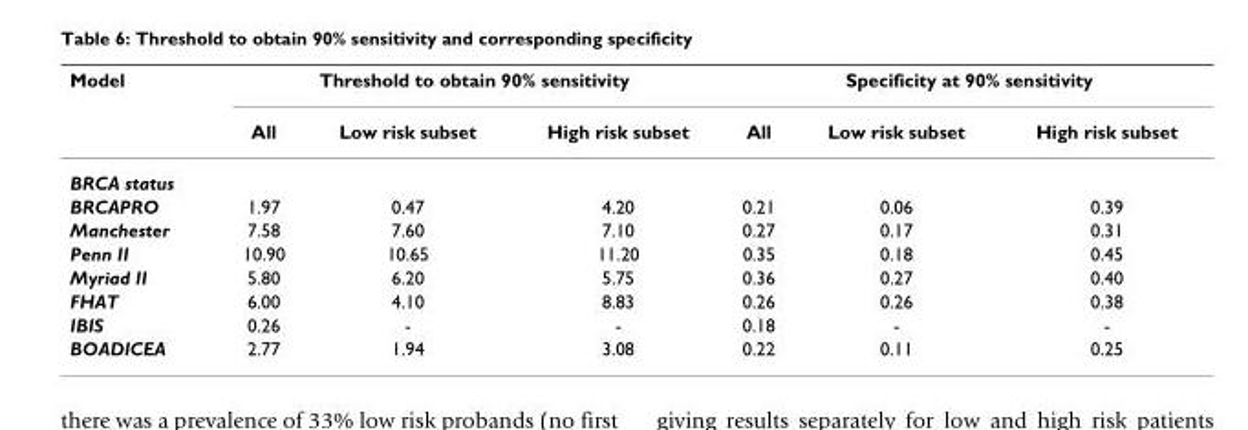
<table><thead><tr><td rowspan="2">Model</td><td colspan="3">Threshold to obtain 90% sensitivity</td><td colspan="3">Specificity at 90% sensitivity</td></tr><tr><td>All</td><td>Low risk subset</td><td>High risk subset</td><td>All</td><td>Low risk subset</td><td>High risk subset</td></tr></thead><tbody><tr><td colspan="7">BRCA status</td></tr><tr><td>BRCAPRO</td><td>1.97</td><td>0.47</td><td>4.20</td><td>0.21</td><td>0.06</td><td>0.39</td></tr><tr><td>Manchester</td><td>7.58</td><td>7.60</td><td>7.10</td><td>0.27</td><td>0.17</td><td>0.31</td></tr><tr><td>Penn II</td><td>10.90</td><td>10.65</td><td>11.20</td><td>0.35</td><td>0.18</td><td>0.45</td></tr><tr><td>Myriad II</td><td>5.80</td><td>6.20</td><td>5.75</td><td>0.36</td><td>0.27</td><td>0.40</td></tr><tr><td>FHAT</td><td>6.00</td><td>4.10</td><td>8.83</td><td>0.26</td><td>0.26</td><td>0.38</td></tr><tr><td>IBIS</td><td>0.26</td><td>-</td><td>-</td><td>0.18</td><td>-</td><td>-</td></tr><tr><td>BOADICEA</td><td>2.77</td><td>1.94</td><td>3.08</td><td>0.22</td><td>0.11</td><td>0.25</td></tr></tbody></table>